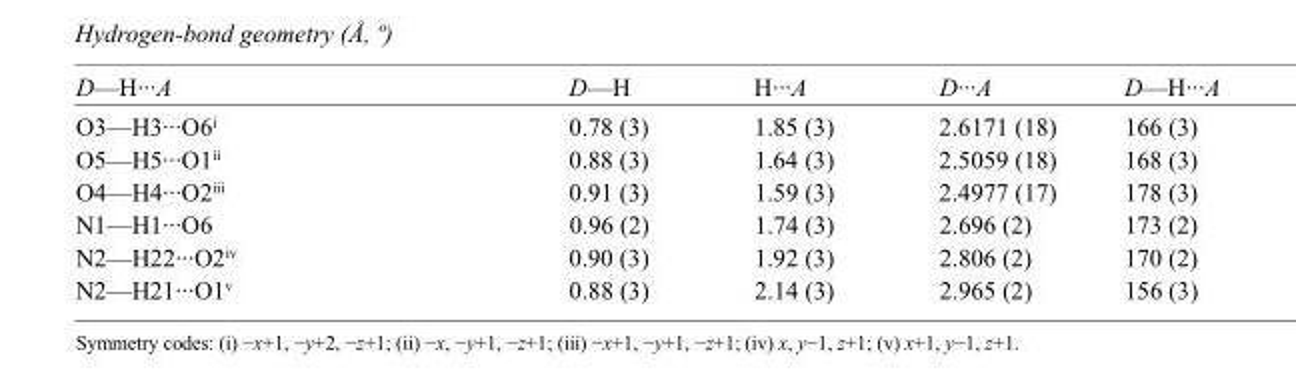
<table><tbody><tr><td>D—H···A</td><td>D—H</td><td>H···A</td><td>D···A</td><td>D—H···A</td></tr><tr><td>O3—H3···O6<sup>i</sup></td><td>0.78 (3)</td><td>1.85 (3)</td><td>2.6171 (18)</td><td>166 (3)</td></tr><tr><td>O5—H5···O1<sup>ii</sup></td><td>0.88 (3)</td><td>1.64 (3)</td><td>2.5059 (18)</td><td>168 (3)</td></tr><tr><td>O4—H4···O2<sup>iii</sup></td><td>0.91 (3)</td><td>1.59 (3)</td><td>2.4977 (17)</td><td>178 (3)</td></tr><tr><td>N1—H1···O6</td><td>0.96 (2)</td><td>1.74 (3)</td><td>2.696 (2)</td><td>173 (2)</td></tr><tr><td>N2—H22···O2<sup>iv</sup></td><td>0.90 (3)</td><td>1.92 (3)</td><td>2.806 (2)</td><td>170 (2)</td></tr><tr><td>N2—H21···O1<sup>v</sup></td><td>0.88 (3)</td><td>2.14 (3)</td><td>2.965 (2)</td><td>156 (3)</td></tr></tbody></table>